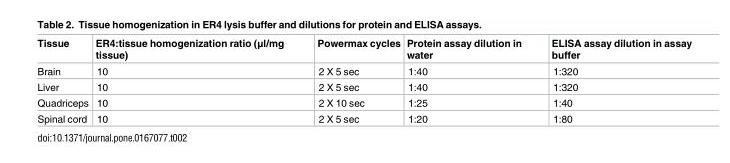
<table><thead><tr><td>Tissue</td><td>ER4:tissue homogenization ratio (μl/mg tissue)</td><td>Powermax cycles</td><td>Protein assay dilution in water</td><td>ELISA assay dilution in assay buffer</td></tr></thead><tbody><tr><td>Brain</td><td>10</td><td>2 X 5 sec</td><td>1:40</td><td>1:320</td></tr><tr><td>Liver</td><td>10</td><td>2 X 5 sec</td><td>1:40</td><td>1:320</td></tr><tr><td>Quadriceps</td><td>10</td><td>2 X 10 sec</td><td>1:25</td><td>1:40</td></tr><tr><td>Spinal cord</td><td>10</td><td>2 X 5 sec</td><td>1:20</td><td>1:80</td></tr></tbody></table>